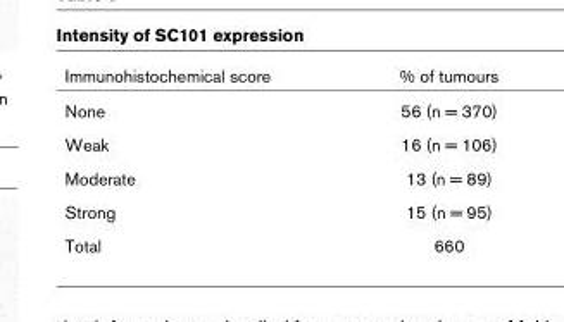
<table><thead><tr><td>Immunohistochemical score</td><td>% of tumours</td></tr></thead><tbody><tr><td>None</td><td>56 (n = 370)</td></tr><tr><td>Weak</td><td>16 (n = 106)</td></tr><tr><td>Moderate</td><td>13 (n = 89)</td></tr><tr><td>Strong</td><td>15 (n = 95)</td></tr><tr><td>Total</td><td>660</td></tr></tbody></table>